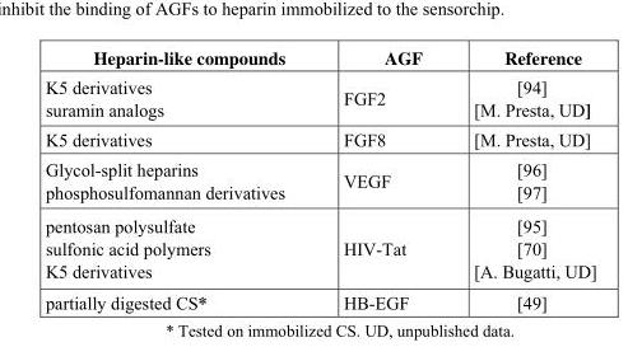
<table><thead><tr><td>Heparin-like compounds</td><td>AGF</td><td>Reference</td></tr></thead><tbody><tr><td>K5 derivatives suramin analogs</td><td>FGF2</td><td>[94] [M. Presta, UD]</td></tr><tr><td>K5 derivatives</td><td>FGF8</td><td>[M. Presta, UD]</td></tr><tr><td>Glycol-split heparins phosphosulfomannan derivatives</td><td>VEGF</td><td>[96] [97]</td></tr><tr><td>pentosan polysulfate sulfonic acid polymers K5 derivatives</td><td>HIV-Tat</td><td>[95] [70] [A. Bugatti, UD]</td></tr><tr><td>partially digested CS*</td><td>HB-EGF</td><td>[49]</td></tr></tbody></table>